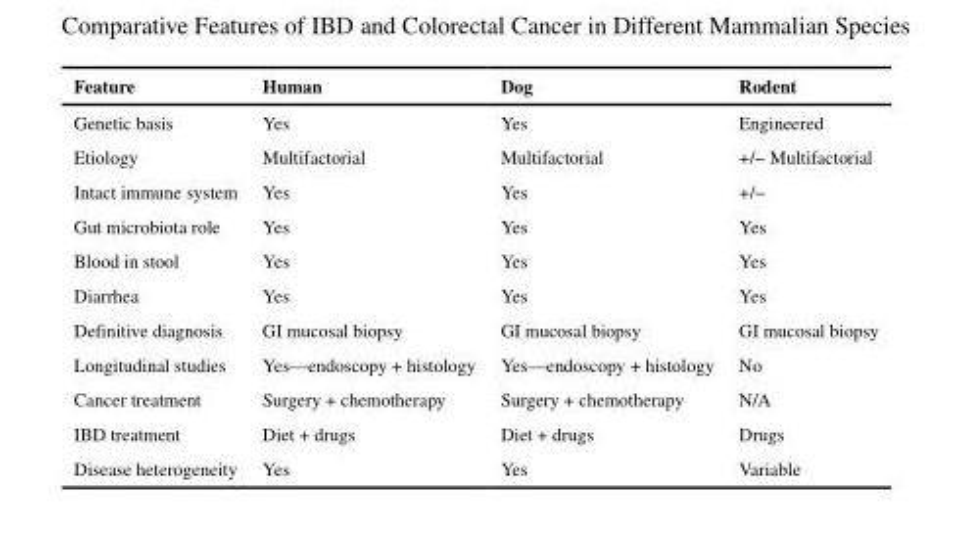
<table><thead><tr><td>Feature</td><td>Human</td><td>Dog</td><td>Rodent</td></tr></thead><tbody><tr><td>Genetic basis</td><td>Yes</td><td>Yes</td><td>Engineered</td></tr><tr><td>Etiology</td><td>Multifactorial</td><td>Multifactorial</td><td>+/− Multifactorial</td></tr><tr><td>Intact immune system</td><td>Yes</td><td>Yes</td><td>+/−</td></tr><tr><td>Gut microbiota role</td><td>Yes</td><td>Yes</td><td>Yes</td></tr><tr><td>Blood in stool</td><td>Yes</td><td>Yes</td><td>Yes</td></tr><tr><td>Diarrhea</td><td>Yes</td><td>Yes</td><td>Yes</td></tr><tr><td>Definitive diagnosis</td><td>GI mucosal biopsy</td><td>GI mucosal biopsy</td><td>GI mucosal biopsy</td></tr><tr><td>Longitudinal studies</td><td>Yes—endoscopy + histology</td><td>Yes—endoscopy + histology</td><td>No</td></tr><tr><td>Cancer treatment</td><td>Surgery + chemotherapy</td><td>Surgery + chemotherapy</td><td>N/A</td></tr><tr><td>IBD treatment</td><td>Diet + drugs</td><td>Diet + drugs</td><td>Drugs</td></tr><tr><td>Disease heterogeneity</td><td>Yes</td><td>Yes</td><td>Variable</td></tr></tbody></table>